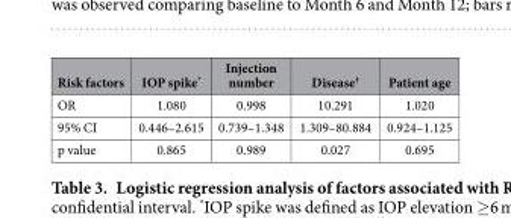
<table><thead><tr><td>Risk factors</td><td>IOP spike*</td><td>Injection number</td><td>Disease†</td><td>Patient age</td></tr></thead><tbody><tr><td>OR</td><td>1.080</td><td>0.998</td><td>10.291</td><td>1.020</td></tr><tr><td>95% CI</td><td>0.446–2.615</td><td>0.739–1.348</td><td>1.309–80.884</td><td>0.924–1.125</td></tr><tr><td>p value</td><td>0.865</td><td>0.989</td><td>0.027</td><td>0.695</td></tr></tbody></table>